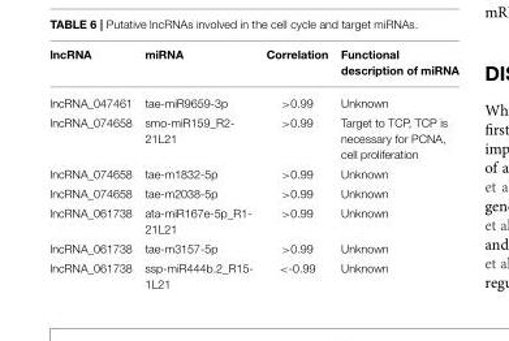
<table><thead><tr><td>lncRNA</td><td>miRNA</td><td>Correlation</td><td>Functional description of miRNA</td></tr></thead><tbody><tr><td>lncRNA_047461</td><td>tae-miR9659-3p</td><td>&gt;0.99</td><td>Unknown</td></tr><tr><td>lncRNA_074658</td><td>smo-miR159_R2- 21L21</td><td>&gt;0.99</td><td>Target to TCP, TCP is necessary for PCNA, cell proliferation</td></tr><tr><td>lncRNA_074658</td><td>tae-m1832-5p</td><td>&gt;0.99</td><td>Unknown</td></tr><tr><td>lncRNA_074658</td><td>tae-m2038-5p</td><td>&gt;0.99</td><td>Unknown</td></tr><tr><td>lncRNA_061738</td><td>ata-miR167e-5p_R1- 21L21</td><td>&gt;0.99</td><td>Unknown</td></tr><tr><td>lncRNA_061738</td><td>tae-m3157-5p</td><td>&gt;0.99</td><td>Unknown</td></tr><tr><td>lncRNA_061738</td><td>ssp-miR444b.2_R15- 1L21</td><td>&lt;-0.99</td><td>Unknown</td></tr></tbody></table>